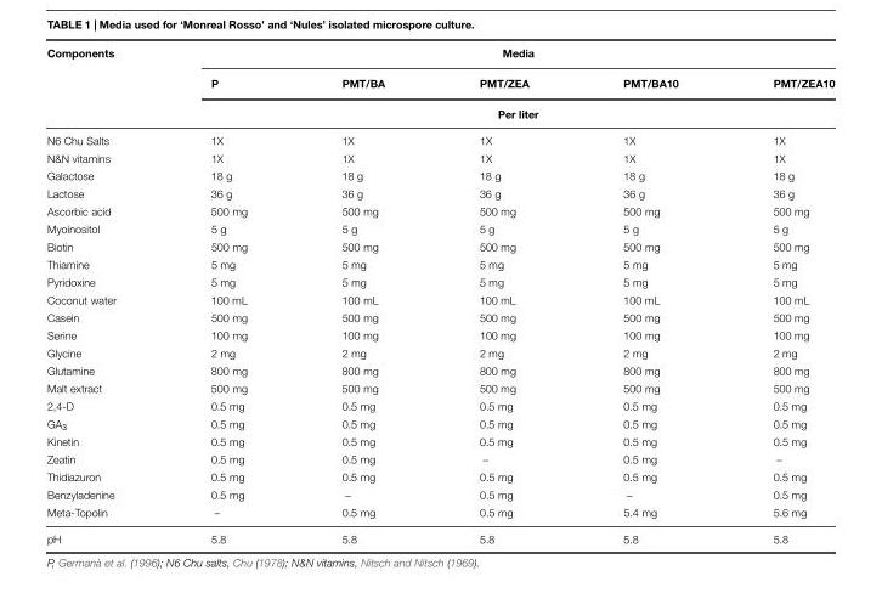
<table><thead><tr><td rowspan="3">Components</td><td colspan="5">Media</td></tr><tr><td>P</td><td>PMT/BA</td><td>PMT/ZEA</td><td>PMT/BA10</td><td>PMT/ZEA10</td></tr><tr><td colspan="5">Per liter</td></tr></thead><tbody><tr><td>N6 Chu Salts</td><td>1X</td><td>1X</td><td>1X</td><td>1X</td><td>1X</td></tr><tr><td>N&amp;N vitamins</td><td>1X</td><td>1X</td><td>1X</td><td>1X</td><td>1X</td></tr><tr><td>Galactose</td><td>18 g</td><td>18 g</td><td>18 g</td><td>18 g</td><td>18 g</td></tr><tr><td>Lactose</td><td>36 g</td><td>36 g</td><td>36 g</td><td>36 g</td><td>36 g</td></tr><tr><td>Ascorbic acid</td><td>500 mg</td><td>500 mg</td><td>500 mg</td><td>500 mg</td><td>500 mg</td></tr><tr><td>Myoinositol</td><td>5 g</td><td>5 g</td><td>5 g</td><td>5 g</td><td>5 g</td></tr><tr><td>Biotin</td><td>500 mg</td><td>500 mg</td><td>500 mg</td><td>500 mg</td><td>500 mg</td></tr><tr><td>Thiamine</td><td>5 mg</td><td>5 mg</td><td>5 mg</td><td>5 mg</td><td>5 mg</td></tr><tr><td>Pyridoxine</td><td>5 mg</td><td>5 mg</td><td>5 mg</td><td>5 mg</td><td>5 mg</td></tr><tr><td>Coconut water</td><td>100 mL</td><td>100 mL</td><td>100 mL</td><td>100 mL</td><td>100 mL</td></tr><tr><td>Casein</td><td>500 mg</td><td>500 mg</td><td>500 mg</td><td>500 mg</td><td>500 mg</td></tr><tr><td>Serine</td><td>100 mg</td><td>100 mg</td><td>100 mg</td><td>100 mg</td><td>100 mg</td></tr><tr><td>Glycine</td><td>2 mg</td><td>2 mg</td><td>2 mg</td><td>2 mg</td><td>2 mg</td></tr><tr><td>Glutamine</td><td>800 mg</td><td>800 mg</td><td>800 mg</td><td>800 mg</td><td>800 mg</td></tr><tr><td>Malt extract</td><td>500 mg</td><td>500 mg</td><td>500 mg</td><td>500 mg</td><td>500 mg</td></tr><tr><td>2,4-D</td><td>0.5 mg</td><td>0.5 mg</td><td>0.5 mg</td><td>0.5 mg</td><td>0.5 mg</td></tr><tr><td>GA<sub>3</sub></td><td>0.5 mg</td><td>0.5 mg</td><td>0.5 mg</td><td>0.5 mg</td><td>0.5 mg</td></tr><tr><td>Kinetin</td><td>0.5 mg</td><td>0.5 mg</td><td>0.5 mg</td><td>0.5 mg</td><td>0.5 mg</td></tr><tr><td>Zeatin</td><td>0.5 mg</td><td>0.5 mg</td><td>–</td><td>0.5 mg</td><td>–</td></tr><tr><td>Thidiazuron</td><td>0.5 mg</td><td>0.5 mg</td><td>0.5 mg</td><td>0.5 mg</td><td>0.5 mg</td></tr><tr><td>Benzyladenine</td><td>0.5 mg</td><td>–</td><td>0.5 mg</td><td>–</td><td>0.5 mg</td></tr><tr><td>Meta-Topolin</td><td>–</td><td>0.5 mg</td><td>0.5 mg</td><td>5.4 mg</td><td>5.6 mg</td></tr><tr><td>pH</td><td>5.8</td><td>5.8</td><td>5.8</td><td>5.8</td><td>5.8</td></tr></tbody></table>